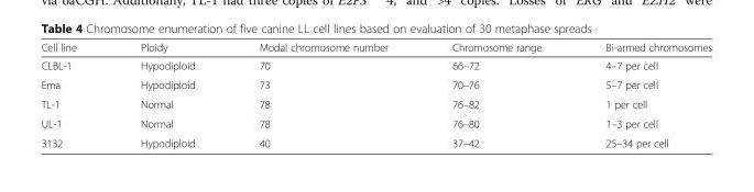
<table><thead><tr><td>Cell line</td><td>Ploidy</td><td>Modal chromosome number</td><td>Chromosome range</td><td>Bi-armed chromosomes</td></tr></thead><tbody><tr><td>CLBL-1</td><td>Hypodiploid</td><td>70</td><td>66–72</td><td>4–7 per cell</td></tr><tr><td>Ema</td><td>Hypodiploid</td><td>73</td><td>70–76</td><td>5–7 per cell</td></tr><tr><td>TL-1</td><td>Normal</td><td>78</td><td>76–82</td><td>1 per cell</td></tr><tr><td>UL-1</td><td>Normal</td><td>78</td><td>76–80</td><td>1–3 per cell</td></tr><tr><td>3132</td><td>Hypodiploid</td><td>40</td><td>37–42</td><td>25–34 per cell</td></tr></tbody></table>